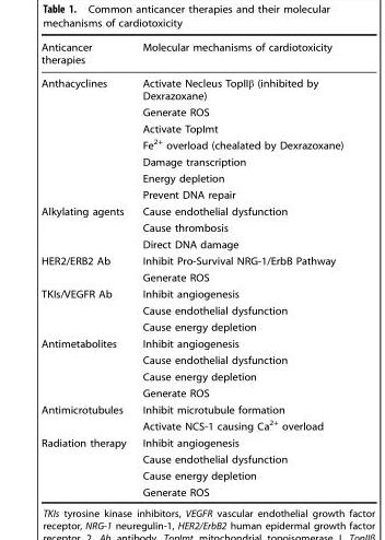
<table><thead><tr><td>Anticancer therapies</td><td>Molecular mechanisms of cardiotoxicity</td></tr></thead><tbody><tr><td rowspan="7">Anthacyclines</td><td>Activate Necleus TopIIβ (inhibited by Dexrazoxane)</td></tr><tr><td>Generate ROS</td></tr><tr><td>Activate TopImt</td></tr><tr><td>Fe<sup>2+</sup> overload (chealated by Dexrazoxane)</td></tr><tr><td>Damage transcription</td></tr><tr><td>Energy depletion</td></tr><tr><td>Prevent DNA repair</td></tr><tr><td rowspan="3">Alkylating agents</td><td>Cause endothelial dysfunction</td></tr><tr><td>Cause thrombosis</td></tr><tr><td>Direct DNA damage</td></tr><tr><td rowspan="2">HER2/ERB2 Ab</td><td>Inhibit Pro-Survival NRG-1/ErbB Pathway</td></tr><tr><td>Generate ROS</td></tr><tr><td rowspan="3">TKIs/VEGFR Ab</td><td>Inhibit angiogenesis</td></tr><tr><td>Cause endothelial dysfunction</td></tr><tr><td>Cause energy depletion</td></tr><tr><td rowspan="4">Antimetabolites</td><td>Inhibit angiogenesis</td></tr><tr><td>Cause endothelial dysfunction</td></tr><tr><td>Cause energy depletion</td></tr><tr><td>Generate ROS</td></tr><tr><td rowspan="2">Antimicrotubules</td><td>Inhibit microtubule formation</td></tr><tr><td>Activate NCS-1 causing Ca<sup>2+</sup> overload</td></tr><tr><td rowspan="4">Radiation therapy</td><td>Inhibit angiogenesis</td></tr><tr><td>Cause endothelial dysfunction</td></tr><tr><td>Cause energy depletion</td></tr><tr><td>Generate ROS</td></tr></tbody></table>